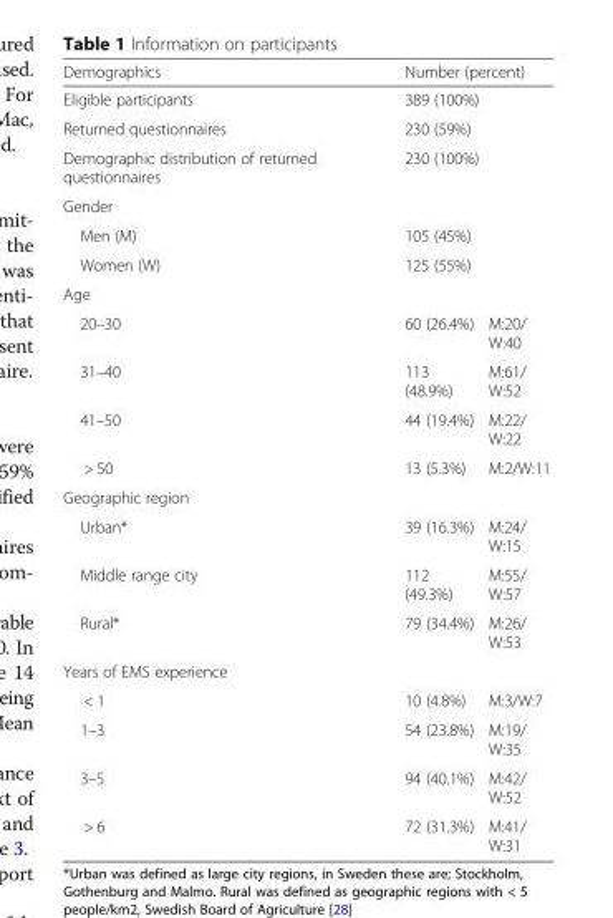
<table><thead><tr><td>Demographics</td><td colspan="2">Number (percent)</td></tr></thead><tbody><tr><td>Eligible participants</td><td colspan="2">389 (100%)</td></tr><tr><td>Returned questionnaires</td><td colspan="2">230 (59%)</td></tr><tr><td>Demographic distribution of returned questionnaires</td><td colspan="2">230 (100%)</td></tr><tr><td colspan="3">Gender</td></tr><tr><td>Men (M)</td><td colspan="2">105 (45%)</td></tr><tr><td>Women (W)</td><td colspan="2">125 (55%)</td></tr><tr><td colspan="3">Age</td></tr><tr><td>20–30</td><td>60 (26.4%)</td><td>M:20/ W:40</td></tr><tr><td>31–40</td><td>113 (48.9%)</td><td>M:61/ W:52</td></tr><tr><td>41–50</td><td>44 (19.4%)</td><td>M:22/ W:22</td></tr><tr><td>&gt; 50</td><td>13 (5.3%)</td><td>M:2/W:11</td></tr><tr><td colspan="3">Geographic region</td></tr><tr><td>Urban*</td><td>39 (16.3%)</td><td>M:24/ W:15</td></tr><tr><td>Middle range city</td><td>112 (49.3%)</td><td>M:55/ W:57</td></tr><tr><td>Rural*</td><td>79 (34.4%)</td><td>M:26/ W:53</td></tr><tr><td colspan="3">Years of EMS experience</td></tr><tr><td>&lt; 1</td><td>10 (4.8%)</td><td>M:3/W:7</td></tr><tr><td>1–3</td><td>54 (23.8%)</td><td>M:19/ W:35</td></tr><tr><td>3–5</td><td>94 (40.1%)</td><td>M:42/ W:52</td></tr><tr><td>&gt; 6</td><td>72 (31.3%)</td><td>M:41/ W:31</td></tr></tbody></table>